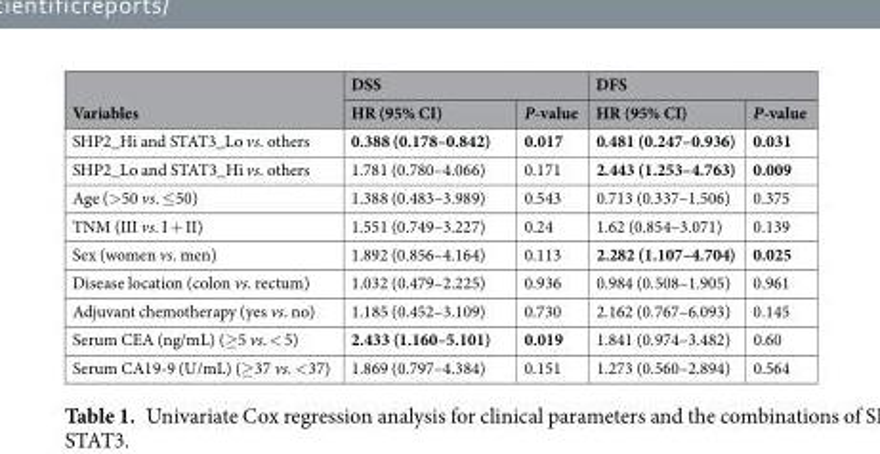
<table><thead><tr><td rowspan="2">Variables</td><td colspan="2">DSS</td><td colspan="2">DFS</td></tr><tr><td>HR (95% CI)</td><td>P-value</td><td>HR (95% CI)</td><td>P-value</td></tr></thead><tbody><tr><td>SHP2_Hi and STAT3_Lo vs. others</td><td>0.388 (0.178–0.842)</td><td>0.017</td><td>0.481 (0.247–0.936)</td><td>0.031</td></tr><tr><td>SHP2_Lo and STAT3_Hi vs. others</td><td>1.781 (0.780–4.066)</td><td>0.171</td><td>2.443 (1.253–4.763)</td><td>0.009</td></tr><tr><td>Age (&gt;50 vs. ≤50)</td><td>1.388 (0.483–3.989)</td><td>0.543</td><td>0.713 (0.337–1.506)</td><td>0.375</td></tr><tr><td>TNM (III vs. I + II)</td><td>1.551 (0.749–3.227)</td><td>0.24</td><td>1.62 (0.854–3.071)</td><td>0.139</td></tr><tr><td>Sex (women vs. men)</td><td>1.892 (0.856–4.164)</td><td>0.113</td><td>2.282 (1.107–4.704)</td><td>0.025</td></tr><tr><td>Disease location (colon vs. rectum)</td><td>1.032 (0.479–2.225)</td><td>0.936</td><td>0.984 (0.508–1.905)</td><td>0.961</td></tr><tr><td>Adjuvant chemotherapy (yes vs. no)</td><td>1.185 (0.452–3.109)</td><td>0.730</td><td>2.162 (0.767–6.093)</td><td>0.145</td></tr><tr><td>Serum CEA (ng/mL) (≥5 vs. &lt; 5)</td><td>2.433 (1.160–5.101)</td><td>0.019</td><td>1.841 (0.974–3.482)</td><td>0.60</td></tr><tr><td>Serum CA19-9 (U/mL) (≥37 vs. &lt;37)</td><td>1.869 (0.797–4.384)</td><td>0.151</td><td>1.273 (0.560–2.894)</td><td>0.564</td></tr></tbody></table>